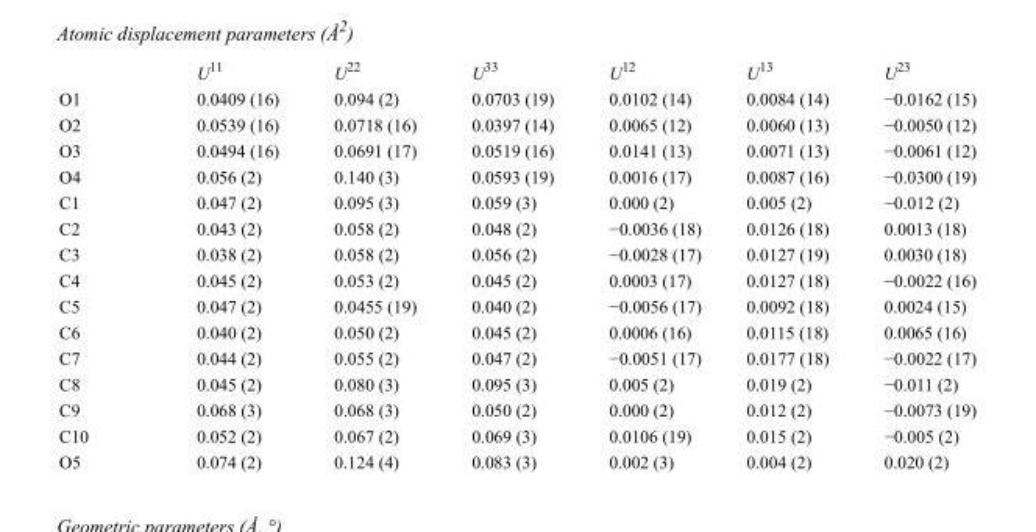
<table><thead><tr><td></td><td>U<sup>11</sup></td><td>U<sup>22</sup></td><td>U<sup>33</sup></td><td>U<sup>12</sup></td><td>U<sup>13</sup></td><td>U<sup>23</sup></td></tr></thead><tbody><tr><td>O1</td><td>0.0409 (16)</td><td>0.094 (2)</td><td>0.0703 (19)</td><td>0.0102 (14)</td><td>0.0084 (14)</td><td>−0.0162 (15)</td></tr><tr><td>O2</td><td>0.0539 (16)</td><td>0.0718 (16)</td><td>0.0397 (14)</td><td>0.0065 (12)</td><td>0.0060 (13)</td><td>−0.0050 (12)</td></tr><tr><td>O3</td><td>0.0494 (16)</td><td>0.0691 (17)</td><td>0.0519 (16)</td><td>0.0141 (13)</td><td>0.0071 (13)</td><td>−0.0061 (12)</td></tr><tr><td>O4</td><td>0.056 (2)</td><td>0.140 (3)</td><td>0.0593 (19)</td><td>0.0016 (17)</td><td>0.0087 (16)</td><td>−0.0300 (19)</td></tr><tr><td>C1</td><td>0.047 (2)</td><td>0.095 (3)</td><td>0.059 (3)</td><td>0.000 (2)</td><td>0.005 (2)</td><td>−0.012 (2)</td></tr><tr><td>C2</td><td>0.043 (2)</td><td>0.058 (2)</td><td>0.048 (2)</td><td>−0.0036 (18)</td><td>0.0126 (18)</td><td>0.0013 (18)</td></tr><tr><td>C3</td><td>0.038 (2)</td><td>0.058 (2)</td><td>0.056 (2)</td><td>−0.0028 (17)</td><td>0.0127 (19)</td><td>0.0030 (18)</td></tr><tr><td>C4</td><td>0.045 (2)</td><td>0.053 (2)</td><td>0.045 (2)</td><td>0.0003 (17)</td><td>0.0127 (18)</td><td>−0.0022 (16)</td></tr><tr><td>C5</td><td>0.047 (2)</td><td>0.0455 (19)</td><td>0.040 (2)</td><td>−0.0056 (17)</td><td>0.0092 (18)</td><td>0.0024 (15)</td></tr><tr><td>C6</td><td>0.040 (2)</td><td>0.050 (2)</td><td>0.045 (2)</td><td>0.0006 (16)</td><td>0.0115 (18)</td><td>0.0065 (16)</td></tr><tr><td>C7</td><td>0.044 (2)</td><td>0.055 (2)</td><td>0.047 (2)</td><td>−0.0051 (17)</td><td>0.0177 (18)</td><td>−0.0022 (17)</td></tr><tr><td>C8</td><td>0.045 (2)</td><td>0.080 (3)</td><td>0.095 (3)</td><td>0.005 (2)</td><td>0.019 (2)</td><td>−0.011 (2)</td></tr><tr><td>C9</td><td>0.068 (3)</td><td>0.068 (3)</td><td>0.050 (2)</td><td>0.000 (2)</td><td>0.012 (2)</td><td>−0.0073 (19)</td></tr><tr><td>C10</td><td>0.052 (2)</td><td>0.067 (2)</td><td>0.069 (3)</td><td>0.0106 (19)</td><td>0.015 (2)</td><td>−0.005 (2)</td></tr><tr><td>O5</td><td>0.074 (2)</td><td>0.124 (4)</td><td>0.083 (3)</td><td>0.002 (3)</td><td>0.004 (2)</td><td>0.020 (2)</td></tr></tbody></table>